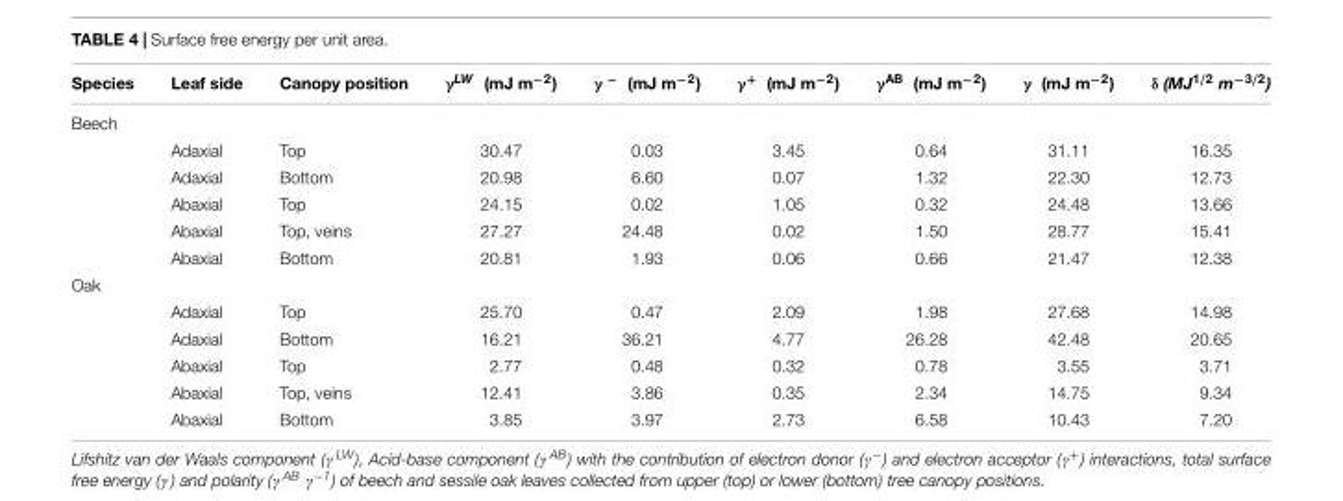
<table><thead><tr><td>Species</td><td>Leaf side</td><td>Canopy position</td><td>γ<sup>LW</sup> (mJ m<sup>−2</sup>)</td><td>γ <sup>−</sup> (mJ m<sup>−2</sup>)</td><td>γ<sup>+</sup> (mJ m<sup>−2</sup>)</td><td>γ<sup>AB</sup> (mJ m<sup>−2</sup>)</td><td>γ (mJ m<sup>−2</sup>)</td><td>δ (MJ<sup>1/2</sup> m<sup>−3/2</sup>)</td></tr></thead><tbody><tr><td colspan="9">Beech</td></tr><tr><td></td><td>Adaxial</td><td>Top</td><td>30.47</td><td>0.03</td><td>3.45</td><td>0.64</td><td>31.11</td><td>16.35</td></tr><tr><td></td><td>Adaxial</td><td>Bottom</td><td>20.98</td><td>6.60</td><td>0.07</td><td>1.32</td><td>22.30</td><td>12.73</td></tr><tr><td></td><td>Abaxial</td><td>Top</td><td>24.15</td><td>0.02</td><td>1.05</td><td>0.32</td><td>24.48</td><td>13.66</td></tr><tr><td></td><td>Abaxial</td><td>Top, veins</td><td>27.27</td><td>24.48</td><td>0.02</td><td>1.50</td><td>28.77</td><td>15.41</td></tr><tr><td></td><td>Abaxial</td><td>Bottom</td><td>20.81</td><td>1.93</td><td>0.06</td><td>0.66</td><td>21.47</td><td>12.38</td></tr><tr><td colspan="9">Oak</td></tr><tr><td></td><td>Adaxial</td><td>Top</td><td>25.70</td><td>0.47</td><td>2.09</td><td>1.98</td><td>27.68</td><td>14.98</td></tr><tr><td></td><td>Adaxial</td><td>Bottom</td><td>16.21</td><td>36.21</td><td>4.77</td><td>26.28</td><td>42.48</td><td>20.65</td></tr><tr><td></td><td>Abaxial</td><td>Top</td><td>2.77</td><td>0.48</td><td>0.32</td><td>0.78</td><td>3.55</td><td>3.71</td></tr><tr><td></td><td>Abaxial</td><td>Top, veins</td><td>12.41</td><td>3.86</td><td>0.35</td><td>2.34</td><td>14.75</td><td>9.34</td></tr><tr><td></td><td>Abaxial</td><td>Bottom</td><td>3.85</td><td>3.97</td><td>2.73</td><td>6.58</td><td>10.43</td><td>7.20</td></tr></tbody></table>